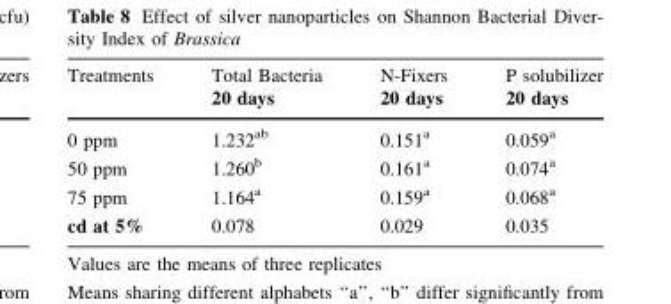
<table><thead><tr><td rowspan="2">Treatments</td><td rowspan="2">Total Bacteria 20 days</td><td rowspan="2">N-Fixers 20 days</td><td rowspan="2">P solubilizer 20 days</td></tr><tr></tr></thead><tbody><tr><td>0 ppm</td><td>1.232<sup>ab</sup></td><td>0.151<sup>a</sup></td><td>0.059<sup>a</sup></td></tr><tr><td>50 ppm</td><td>1.260<sup>b</sup></td><td>0.161<sup>a</sup></td><td>0.074<sup>a</sup></td></tr><tr><td>75 ppm</td><td>1.164<sup>a</sup></td><td>0.159<sup>a</sup></td><td>0.068<sup>a</sup></td></tr><tr><td>cd at 5%</td><td>0.078</td><td>0.029</td><td>0.035</td></tr></tbody></table>